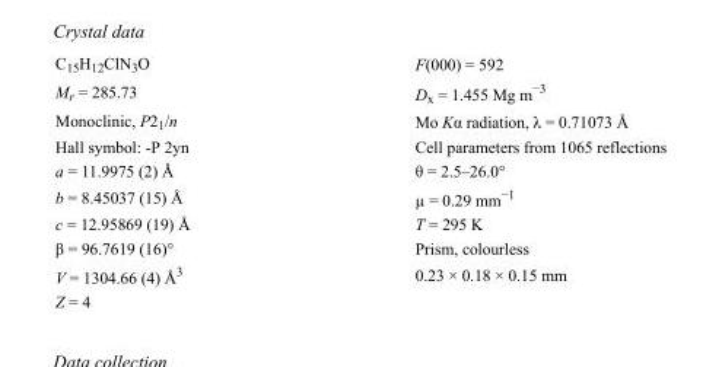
<table><tbody><tr><td>C<sub>15</sub>H<sub>12</sub>ClN<sub>3</sub>O</td><td>F(000) = 592</td></tr><tr><td>M<sub>r</sub> = 285.73</td><td>D<sub>x</sub> = 1.455 Mg m<sup>−3</sup></td></tr><tr><td>Monoclinic, P2<sub>1</sub>/n</td><td>Mo Kα radiation, λ = 0.71073 Å</td></tr><tr><td>Hall symbol: -P 2yn</td><td>Cell parameters from 1065 reflections</td></tr><tr><td>a = 11.9975 (2) Å</td><td>θ = 2.5–26.0°</td></tr><tr><td>b = 8.45037 (15) Å</td><td>µ = 0.29 mm<sup>−1</sup></td></tr><tr><td>c = 12.95869 (19) Å</td><td>T = 295 K</td></tr><tr><td>β = 96.7619 (16)°</td><td>Prism, colourless</td></tr><tr><td>V = 1304.66 (4) Å<sup>3</sup></td><td>0.23 × 0.18 × 0.15 mm</td></tr><tr><td>Z = 4</td><td></td></tr></tbody></table>